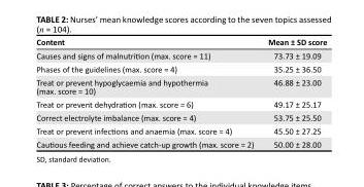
<table><thead><tr><td>Content</td><td>Mean ± SD score</td></tr></thead><tbody><tr><td>Causes and signs of malnutrition (max. score = 11)</td><td>73.73 ± 19.09</td></tr><tr><td>Phases of the guidelines (max. score = 4)</td><td>35.25 ± 36.50</td></tr><tr><td>Treat or prevent hypoglycaemia and hypothermia (max. score = 10)</td><td>46.88 ± 23.00</td></tr><tr><td>Treat or prevent dehydration (max. score = 6)</td><td>49.17 ± 25.17</td></tr><tr><td>Correct electrolyte imbalance (max. score = 4)</td><td>53.75 ± 25.50</td></tr><tr><td>Treat or prevent infections and anaemia (max. score = 4)</td><td>45.50 ± 27.25</td></tr><tr><td>Cautious feeding and achieve catch-up growth (max. score = 2)</td><td>50.00 ± 28.00</td></tr></tbody></table>